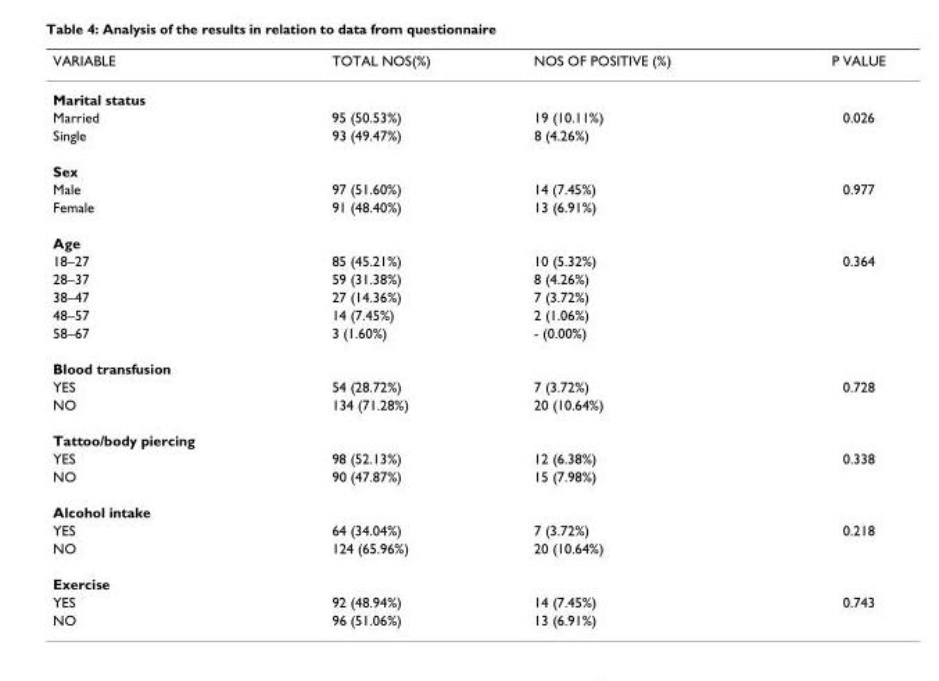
<table><thead><tr><td>VARIABLE</td><td>TOTAL NOS(%)</td><td>NOS OF POSITIVE (%)</td><td>P VALUE</td></tr></thead><tbody><tr><td colspan="4">Marital status</td></tr><tr><td>Married</td><td>95 (50.53%)</td><td>19 (10.11%)</td><td>0.026</td></tr><tr><td>Single</td><td>93 (49.47%)</td><td>8 (4.26%)</td><td></td></tr><tr><td colspan="4">Sex</td></tr><tr><td>Male</td><td>97 (51.60%)</td><td>14 (7.45%)</td><td>0.977</td></tr><tr><td>Female</td><td>91 (48.40%)</td><td>13 (6.91%)</td><td></td></tr><tr><td colspan="4">Age</td></tr><tr><td>18–27</td><td>85 (45.21%)</td><td>10 (5.32%)</td><td>0.364</td></tr><tr><td>28–37</td><td>59 (31.38%)</td><td>8 (4.26%)</td><td></td></tr><tr><td>38–47</td><td>27 (14.36%)</td><td>7 (3.72%)</td><td></td></tr><tr><td>48–57</td><td>14 (7.45%)</td><td>2 (1.06%)</td><td></td></tr><tr><td>58–67</td><td>3 (1.60%)</td><td>- (0.00%)</td><td></td></tr><tr><td colspan="4">Blood transfusion</td></tr><tr><td>YES</td><td>54 (28.72%)</td><td>7 (3.72%)</td><td>0.728</td></tr><tr><td>NO</td><td>134 (71.28%)</td><td>20 (10.64%)</td><td></td></tr><tr><td colspan="4">Tattoo/body piercing</td></tr><tr><td>YES</td><td>98 (52.13%)</td><td>12 (6.38%)</td><td>0.338</td></tr><tr><td>NO</td><td>90 (47.87%)</td><td>15 (7.98%)</td><td></td></tr><tr><td colspan="4">Alcohol intake</td></tr><tr><td>YES</td><td>64 (34.04%)</td><td>7 (3.72%)</td><td>0.218</td></tr><tr><td>NO</td><td>124 (65.96%)</td><td>20 (10.64%)</td><td></td></tr><tr><td colspan="4">Exercise</td></tr><tr><td>YES</td><td>92 (48.94%)</td><td>14 (7.45%)</td><td>0.743</td></tr><tr><td>NO</td><td>96 (51.06%)</td><td>13 (6.91%)</td><td></td></tr></tbody></table>